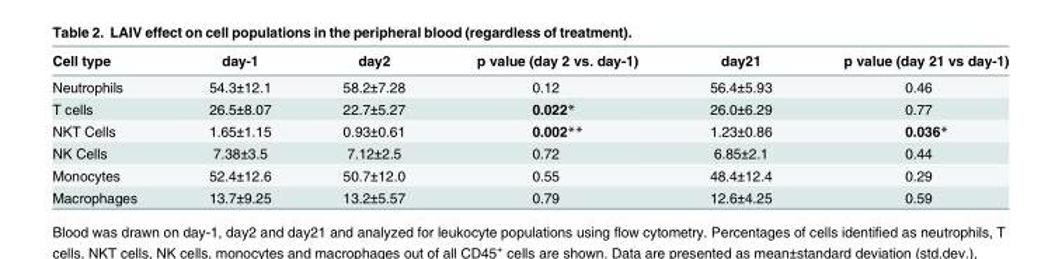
<table><thead><tr><td>Cell type</td><td>day-1</td><td>day2</td><td>p value (day 2 vs. day-1)</td><td>day21</td><td>p value (day 21 vs day-1)</td></tr></thead><tbody><tr><td>Neutrophils</td><td>54.3±12.1</td><td>58.2±7.28</td><td>0.12</td><td>56.4±5.93</td><td>0.46</td></tr><tr><td>T cells</td><td>26.5±8.07</td><td>22.7±5.27</td><td>0.022*</td><td>26.0±6.29</td><td>0.77</td></tr><tr><td>NKT Cells</td><td>1.65±1.15</td><td>0.93±0.61</td><td>0.002**</td><td>1.23±0.86</td><td>0.036*</td></tr><tr><td>NK Cells</td><td>7.38±3.5</td><td>7.12±2.5</td><td>0.72</td><td>6.85±2.1</td><td>0.44</td></tr><tr><td>Monocytes</td><td>52.4±12.6</td><td>50.7±12.0</td><td>0.55</td><td>48.4±12.4</td><td>0.29</td></tr><tr><td>Macrophages</td><td>13.7±9.25</td><td>13.2±5.57</td><td>0.79</td><td>12.6±4.25</td><td>0.59</td></tr></tbody></table>